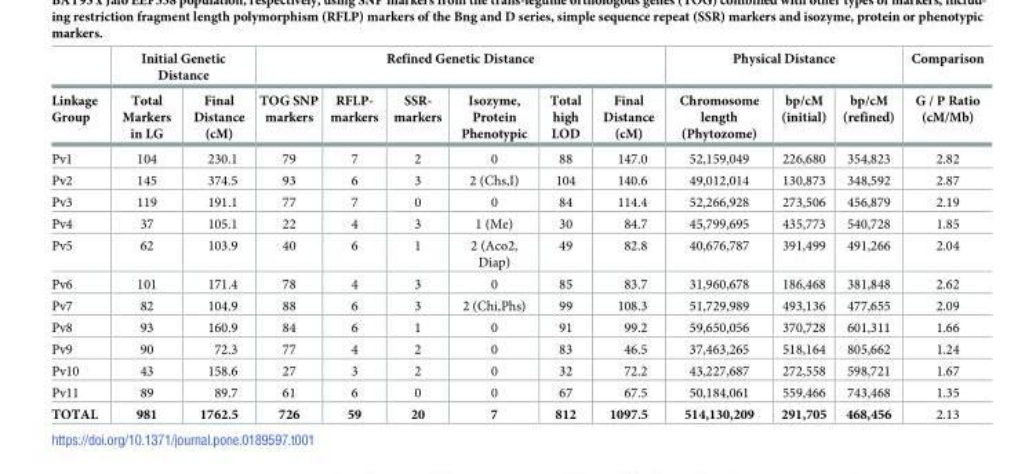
<table><thead><tr><td rowspan="2">Linkage Group</td><td colspan="2">Initial Genetic Distance</td><td colspan="6">Refined Genetic Distance</td><td colspan="3">Physical Distance</td><td rowspan="2">Comparison G / P Ratio (cM/Mb)</td></tr><tr><td>Total Markers in LG</td><td>Final Distance (cM)</td><td>TOG SNP markers</td><td>RFLP- markers</td><td>SSR- markers</td><td>Isozyme, Protein Phenotypic</td><td>Total high LOD</td><td>Final Distance (cM)</td><td>Chromosome length (Phytozome)</td><td>bp/cM (initial)</td><td>bp/cM (refined)</td></tr></thead><tbody><tr><td>Pv1</td><td>104</td><td>230.1</td><td>79</td><td>7</td><td>2</td><td>0</td><td>88</td><td>147.0</td><td>52,159,049</td><td>226,680</td><td>354,823</td><td>2.82</td></tr><tr><td>Pv2</td><td>145</td><td>374.5</td><td>93</td><td>6</td><td>3</td><td>2 (Chs,I)</td><td>104</td><td>140.6</td><td>49,012,014</td><td>130,873</td><td>348,592</td><td>2.87</td></tr><tr><td>Pv3</td><td>119</td><td>191.1</td><td>77</td><td>7</td><td>0</td><td>0</td><td>84</td><td>114.4</td><td>52,266,928</td><td>273,506</td><td>456,879</td><td>2.19</td></tr><tr><td>Pv4</td><td>37</td><td>105.1</td><td>22</td><td>4</td><td>3</td><td>1 (Me)</td><td>30</td><td>84.7</td><td>45,799,695</td><td>435,773</td><td>540,728</td><td>1.85</td></tr><tr><td>Pv5</td><td>62</td><td>103.9</td><td>40</td><td>6</td><td>1</td><td>2 (Aco2, Diap)</td><td>49</td><td>82.8</td><td>40,676,787</td><td>391,499</td><td>491,266</td><td>2.04</td></tr><tr><td>Pv6</td><td>101</td><td>171.4</td><td>78</td><td>4</td><td>3</td><td>0</td><td>85</td><td>83.7</td><td>31,960,678</td><td>186,468</td><td>381,848</td><td>2.62</td></tr><tr><td>Pv7</td><td>82</td><td>104.9</td><td>88</td><td>6</td><td>3</td><td>2 (Chi,Phs)</td><td>99</td><td>108.3</td><td>51,729,989</td><td>493,136</td><td>477,655</td><td>2.09</td></tr><tr><td>Pv8</td><td>93</td><td>160.9</td><td>84</td><td>6</td><td>1</td><td>0</td><td>91</td><td>99.2</td><td>59,650,056</td><td>370,728</td><td>601,311</td><td>1.66</td></tr><tr><td>Pv9</td><td>90</td><td>72.3</td><td>77</td><td>4</td><td>2</td><td>0</td><td>83</td><td>46.5</td><td>37,463,265</td><td>518,164</td><td>805,662</td><td>1.24</td></tr><tr><td>Pv10</td><td>43</td><td>158.6</td><td>27</td><td>3</td><td>2</td><td>0</td><td>32</td><td>72.2</td><td>43,227,687</td><td>272,558</td><td>598,721</td><td>1.67</td></tr><tr><td>Pv11</td><td>89</td><td>89.7</td><td>61</td><td>6</td><td>0</td><td>0</td><td>67</td><td>67.5</td><td>50,184,061</td><td>559,466</td><td>743,468</td><td>1.35</td></tr><tr><td>TOTAL</td><td>981</td><td>1762.5</td><td>726</td><td>59</td><td>20</td><td>7</td><td>812</td><td>1097.5</td><td>514,130,209</td><td>291,705</td><td>468,456</td><td>2.13</td></tr></tbody></table>